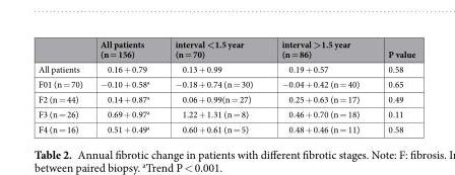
<table><thead><tr><td></td><td>All patients (n = 156)</td><td>interval &lt;1.5 year (n = 70)</td><td>interval &gt;1.5 year (n = 86)</td><td>P value</td></tr></thead><tbody><tr><td>All patients</td><td>0.16 + 0.79</td><td>0.13 + 0.99</td><td>0.19 + 0.57</td><td>0.58</td></tr><tr><td>F01 (n = 70)</td><td>−0.10 + 0.58<sup>a</sup></td><td>−0.18 + 0.74 (n = 30)</td><td>−0.04 + 0.42 (n = 40)</td><td>0.65</td></tr><tr><td>F2 (n = 44)</td><td>0.14 + 0.87<sup>a</sup></td><td>0.06 + 0.99(n = 27)</td><td>0.25 + 0.63 (n = 17)</td><td>0.49</td></tr><tr><td>F3 (n = 26)</td><td>0.69 + 0.97<sup>a</sup></td><td>1.22 + 1.31 (n = 8)</td><td>0.46 + 0.70 (n = 18)</td><td>0.11</td></tr><tr><td>F4 (n = 16)</td><td>0.51 + 0.49<sup>a</sup></td><td>0.60 + 0.61 (n = 5)</td><td>0.48 + 0.46 (n = 11)</td><td>0.58</td></tr></tbody></table>